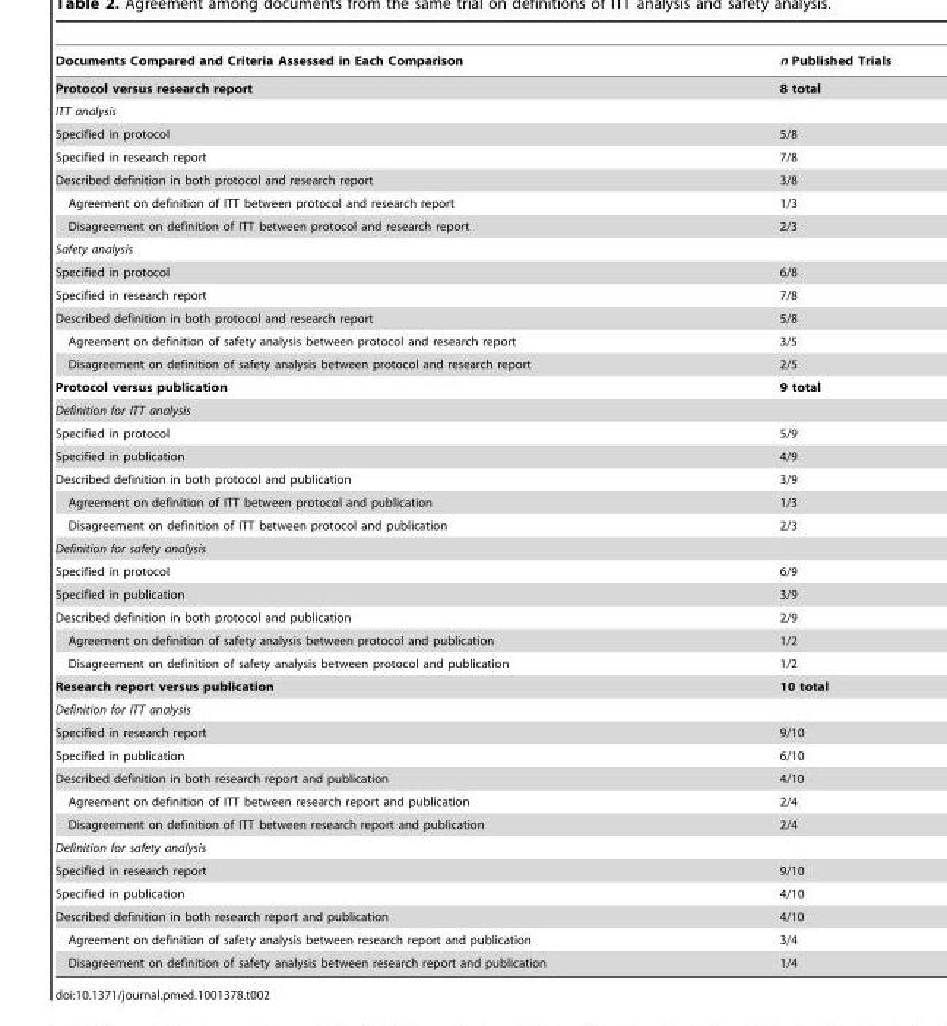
<table><thead><tr><td>Documents Compared and Criteria Assessed in Each Comparison</td><td>n Published Trials</td></tr></thead><tbody><tr><td>Protocol versus research report</td><td>8 total</td></tr><tr><td colspan="2">ITT analysis</td></tr><tr><td>Specified in protocol</td><td>5/8</td></tr><tr><td>Specified in research report</td><td>7/8</td></tr><tr><td>Described definition in both protocol and research report</td><td>3/8</td></tr><tr><td>Agreement on definition of ITT between protocol and research report</td><td>1/3</td></tr><tr><td>Disagreement on definition of ITT between protocol and research report</td><td>2/3</td></tr><tr><td colspan="2">Safety analysis</td></tr><tr><td>Specified in protocol</td><td>6/8</td></tr><tr><td>Specified in research report</td><td>7/8</td></tr><tr><td>Described definition in both protocol and research report</td><td>5/8</td></tr><tr><td>Agreement on definition of safety analysis between protocol and research report</td><td>3/5</td></tr><tr><td>Disagreement on definition of safety analysis between protocol and research report</td><td>2/5</td></tr><tr><td>Protocol versus publication</td><td>9 total</td></tr><tr><td colspan="2">Definition for ITT analysis</td></tr><tr><td>Specified in protocol</td><td>5/9</td></tr><tr><td>Specified in publication</td><td>4/9</td></tr><tr><td>Described definition in both protocol and publication</td><td>3/9</td></tr><tr><td>Agreement on definition of ITT between protocol and publication</td><td>1/3</td></tr><tr><td>Disagreement on definition of ITT between protocol and publication</td><td>2/3</td></tr><tr><td colspan="2">Definition for safety analysis</td></tr><tr><td>Specified in protocol</td><td>6/9</td></tr><tr><td>Specified in publication</td><td>3/9</td></tr><tr><td>Described definition in both protocol and publication</td><td>2/9</td></tr><tr><td>Agreement on definition of safety analysis between protocol and publication</td><td>1/2</td></tr><tr><td>Disagreement on definition of safety analysis between protocol and publication</td><td>1/2</td></tr><tr><td>Research report versus publication</td><td>10 total</td></tr><tr><td colspan="2">Definition for ITT analysis</td></tr><tr><td>Specified in research report</td><td>9/10</td></tr><tr><td>Specified in publication</td><td>6/10</td></tr><tr><td>Described definition in both research report and publication</td><td>4/10</td></tr><tr><td>Agreement on definition of ITT between research report and publication</td><td>2/4</td></tr><tr><td>Disagreement on definition of ITT between research report and publication</td><td>2/4</td></tr><tr><td colspan="2">Definition for safety analysis</td></tr><tr><td>Specified in research report</td><td>9/10</td></tr><tr><td>Specified in publication</td><td>4/10</td></tr><tr><td>Described definition in both research report and publication</td><td>4/10</td></tr><tr><td>Agreement on definition of safety analysis between research report and publication</td><td>3/4</td></tr><tr><td>Disagreement on definition of safety analysis between research report and publication</td><td>1/4</td></tr></tbody></table>